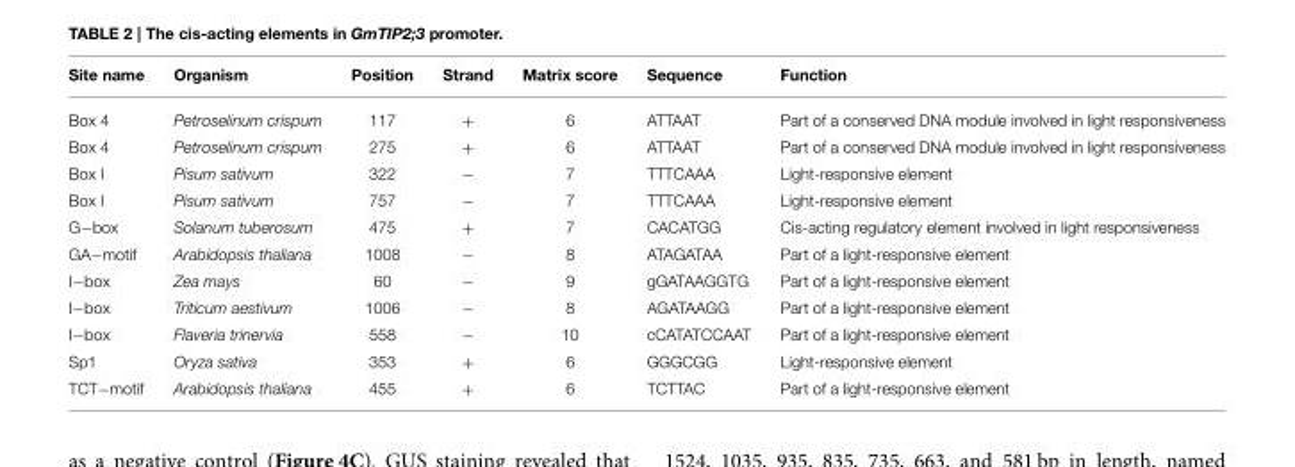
<table><thead><tr><td>Site name</td><td>Organism</td><td>Position</td><td>Strand</td><td>Matrix score</td><td>Sequence</td><td>Function</td></tr></thead><tbody><tr><td>Box 4</td><td>Petroselinum crispum</td><td>117</td><td>+</td><td>6</td><td>ATTAAT</td><td>Part of a conserved DNA module involved in light responsiveness</td></tr><tr><td>Box 4</td><td>Petroselinum crispum</td><td>275</td><td>+</td><td>6</td><td>ATTAAT</td><td>Part of a conserved DNA module involved in light responsiveness</td></tr><tr><td>Box I</td><td>Pisum sativum</td><td>322</td><td>−</td><td>7</td><td>TTTCAAA</td><td>Light-responsive element</td></tr><tr><td>Box I</td><td>Pisum sativum</td><td>757</td><td>−</td><td>7</td><td>TTTCAAA</td><td>Light-responsive element</td></tr><tr><td>G−box</td><td>Solanum tuberosum</td><td>475</td><td>+</td><td>7</td><td>CACATGG</td><td>Cis-acting regulatory element involved in light responsiveness</td></tr><tr><td>GA−motif</td><td>Arabidopsis thaliana</td><td>1008</td><td>−</td><td>8</td><td>ATAGATAA</td><td>Part of a light-responsive element</td></tr><tr><td>I−box</td><td>Zea mays</td><td>60</td><td>−</td><td>9</td><td>gGATAAGGTG</td><td>Part of a light-responsive element</td></tr><tr><td>I−box</td><td>Triticum aestivum</td><td>1006</td><td>−</td><td>8</td><td>AGATAAGG</td><td>Part of a light-responsive element</td></tr><tr><td>I−box</td><td>Flaveria trinervia</td><td>558</td><td>−</td><td>10</td><td>cCATATCCAAT</td><td>Part of a light-responsive element</td></tr><tr><td>Sp1</td><td>Oryza sativa</td><td>353</td><td>+</td><td>6</td><td>GGGCGG</td><td>Light-responsive element</td></tr><tr><td>TCT−motif</td><td>Arabidopsis thaliana</td><td>455</td><td>+</td><td>6</td><td>TCTTAC</td><td>Part of a light-responsive element</td></tr></tbody></table>